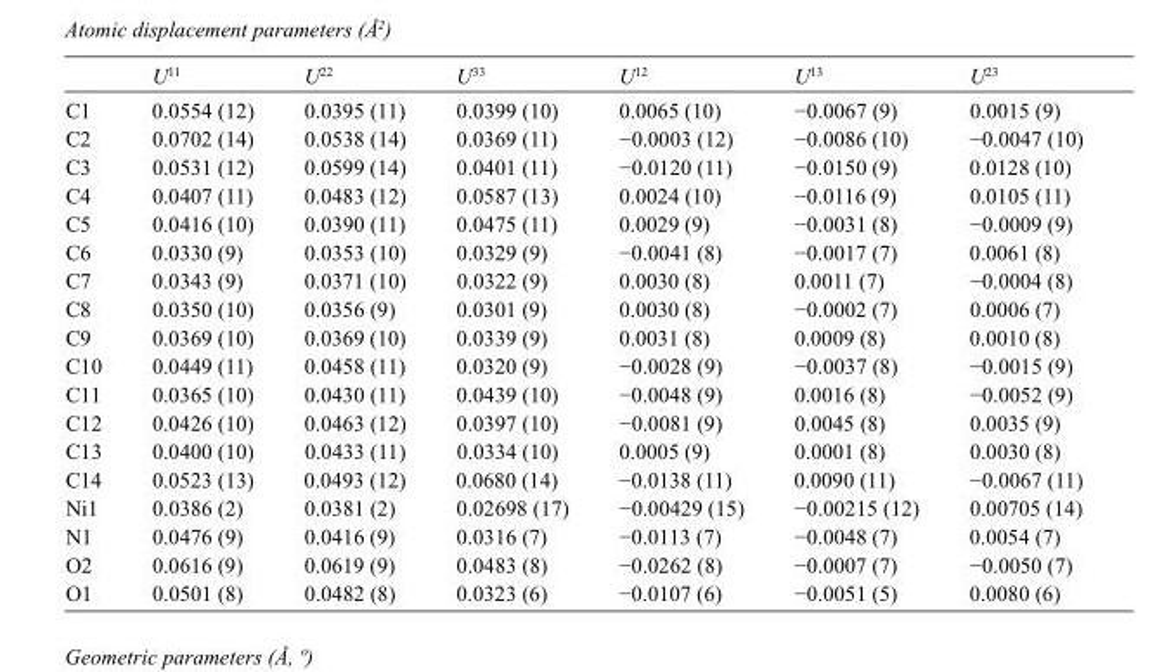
<table><thead><tr><td></td><td>U<sup>11</sup></td><td>U<sup>22</sup></td><td>U<sup>33</sup></td><td>U<sup>12</sup></td><td>U<sup>13</sup></td><td>U<sup>23</sup></td></tr></thead><tbody><tr><td>C1</td><td>0.0554 (12)</td><td>0.0395 (11)</td><td>0.0399 (10)</td><td>0.0065 (10)</td><td>−0.0067 (9)</td><td>0.0015 (9)</td></tr><tr><td>C2</td><td>0.0702 (14)</td><td>0.0538 (14)</td><td>0.0369 (11)</td><td>−0.0003 (12)</td><td>−0.0086 (10)</td><td>−0.0047 (10)</td></tr><tr><td>C3</td><td>0.0531 (12)</td><td>0.0599 (14)</td><td>0.0401 (11)</td><td>−0.0120 (11)</td><td>−0.0150 (9)</td><td>0.0128 (10)</td></tr><tr><td>C4</td><td>0.0407 (11)</td><td>0.0483 (12)</td><td>0.0587 (13)</td><td>0.0024 (10)</td><td>−0.0116 (9)</td><td>0.0105 (11)</td></tr><tr><td>C5</td><td>0.0416 (10)</td><td>0.0390 (11)</td><td>0.0475 (11)</td><td>0.0029 (9)</td><td>−0.0031 (8)</td><td>−0.0009 (9)</td></tr><tr><td>C6</td><td>0.0330 (9)</td><td>0.0353 (10)</td><td>0.0329 (9)</td><td>−0.0041 (8)</td><td>−0.0017 (7)</td><td>0.0061 (8)</td></tr><tr><td>C7</td><td>0.0343 (9)</td><td>0.0371 (10)</td><td>0.0322 (9)</td><td>0.0030 (8)</td><td>0.0011 (7)</td><td>−0.0004 (8)</td></tr><tr><td>C8</td><td>0.0350 (10)</td><td>0.0356 (9)</td><td>0.0301 (9)</td><td>0.0030 (8)</td><td>−0.0002 (7)</td><td>0.0006 (7)</td></tr><tr><td>C9</td><td>0.0369 (10)</td><td>0.0369 (10)</td><td>0.0339 (9)</td><td>0.0031 (8)</td><td>0.0009 (8)</td><td>0.0010 (8)</td></tr><tr><td>C10</td><td>0.0449 (11)</td><td>0.0458 (11)</td><td>0.0320 (9)</td><td>−0.0028 (9)</td><td>−0.0037 (8)</td><td>−0.0015 (9)</td></tr><tr><td>C11</td><td>0.0365 (10)</td><td>0.0430 (11)</td><td>0.0439 (10)</td><td>−0.0048 (9)</td><td>0.0016 (8)</td><td>−0.0052 (9)</td></tr><tr><td>C12</td><td>0.0426 (10)</td><td>0.0463 (12)</td><td>0.0397 (10)</td><td>−0.0081 (9)</td><td>0.0045 (8)</td><td>0.0035 (9)</td></tr><tr><td>C13</td><td>0.0400 (10)</td><td>0.0433 (11)</td><td>0.0334 (10)</td><td>0.0005 (9)</td><td>0.0001 (8)</td><td>0.0030 (8)</td></tr><tr><td>C14</td><td>0.0523 (13)</td><td>0.0493 (12)</td><td>0.0680 (14)</td><td>−0.0138 (11)</td><td>0.0090 (11)</td><td>−0.0067 (11)</td></tr><tr><td>Ni1</td><td>0.0386 (2)</td><td>0.0381 (2)</td><td>0.02698 (17)</td><td>−0.00429 (15)</td><td>−0.00215 (12)</td><td>0.00705 (14)</td></tr><tr><td>N1</td><td>0.0476 (9)</td><td>0.0416 (9)</td><td>0.0316 (7)</td><td>−0.0113 (7)</td><td>−0.0048 (7)</td><td>0.0054 (7)</td></tr><tr><td>O2</td><td>0.0616 (9)</td><td>0.0619 (9)</td><td>0.0483 (8)</td><td>−0.0262 (8)</td><td>−0.0007 (7)</td><td>−0.0050 (7)</td></tr><tr><td>O1</td><td>0.0501 (8)</td><td>0.0482 (8)</td><td>0.0323 (6)</td><td>−0.0107 (6)</td><td>−0.0051 (5)</td><td>0.0080 (6)</td></tr></tbody></table>